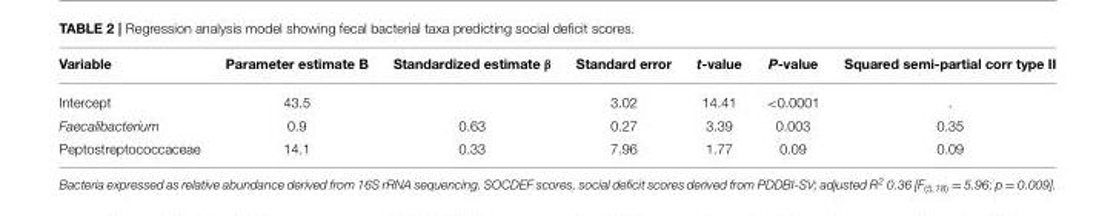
<table><thead><tr><td>Variable</td><td>Parameter estimate B</td><td>Standardized estimate β</td><td>Standard error</td><td>t-value</td><td>P-value</td><td>Squared semi-partial corr type II</td></tr></thead><tbody><tr><td>Intercept</td><td>43.5</td><td></td><td>3.02</td><td>14.41</td><td>&lt;0.0001</td><td>.</td></tr><tr><td>Faecalibacterium</td><td>0.9</td><td>0.63</td><td>0.27</td><td>3.39</td><td>0.003</td><td>0.35</td></tr><tr><td>Peptostreptococcaceae</td><td>14.1</td><td>0.33</td><td>7.96</td><td>1.77</td><td>0.09</td><td>0.09</td></tr></tbody></table>